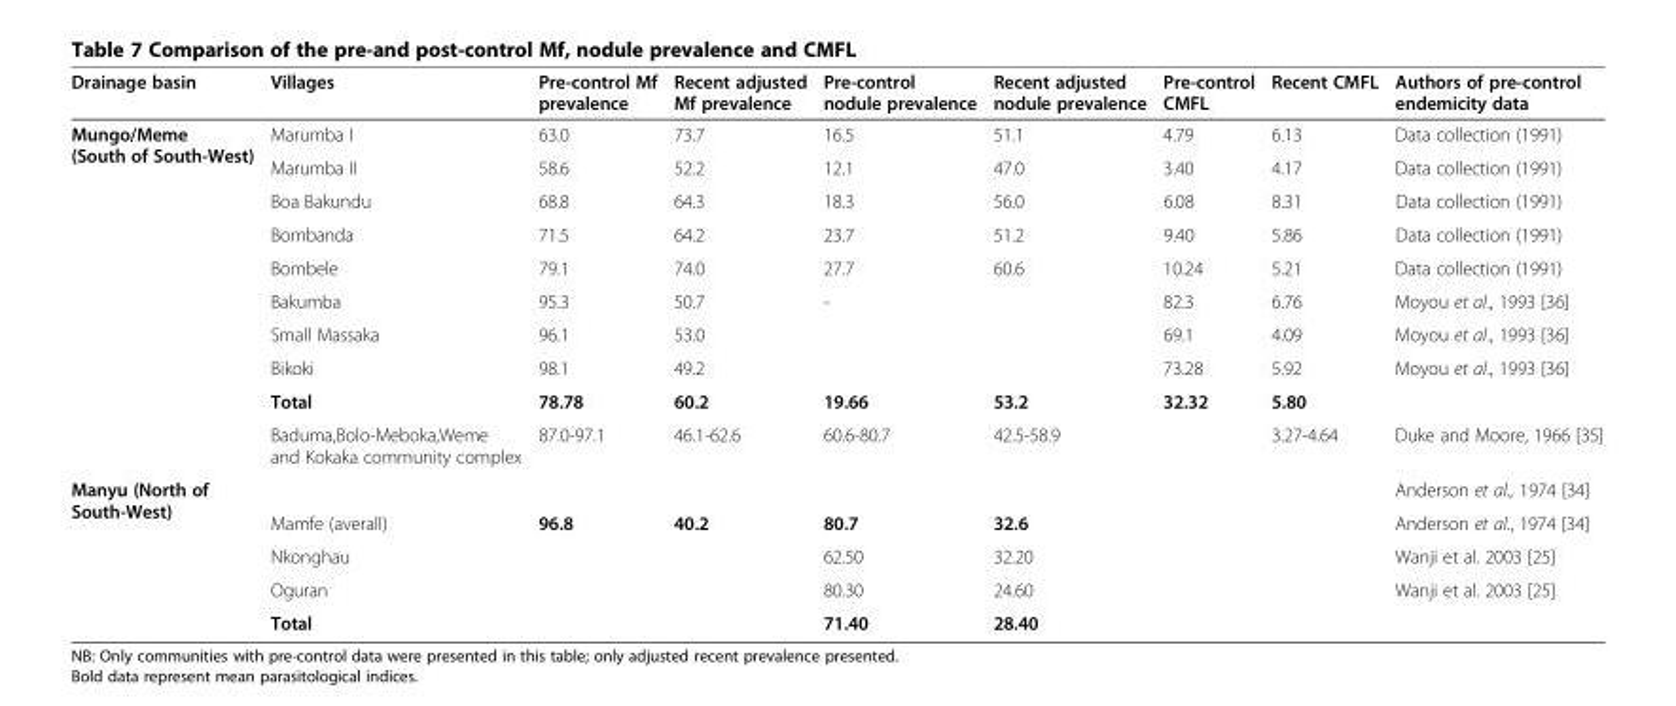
<table><thead><tr><td>Drainage basin</td><td>Villages</td><td>Pre-control Mf prevalence</td><td>Recent adjusted Mf prevalence</td><td>Pre-control nodule prevalence</td><td>Recent adjusted nodule prevalence</td><td>Pre-control CMFL</td><td>Recent CMFL</td><td>Authors of pre-control endemicity data</td></tr></thead><tbody><tr><td rowspan="10">Mungo/Meme (South of South-West)</td><td>Marumba I</td><td>63.0</td><td>73.7</td><td>16.5</td><td>51.1</td><td>4.79</td><td>6.13</td><td>Data collection (1991)</td></tr><tr><td>Marumba II</td><td>58.6</td><td>52.2</td><td>12.1</td><td>47.0</td><td>3.40</td><td>4.17</td><td>Data collection (1991)</td></tr><tr><td>Boa Bakundu</td><td>68.8</td><td>64.3</td><td>18.3</td><td>56.0</td><td>6.08</td><td>8.31</td><td>Data collection (1991)</td></tr><tr><td>Bombanda</td><td>71.5</td><td>64.2</td><td>23.7</td><td>51.2</td><td>9.40</td><td>5.86</td><td>Data collection (1991)</td></tr><tr><td>Bombele</td><td>79.1</td><td>74.0</td><td>27.7</td><td>60.6</td><td>10.24</td><td>5.21</td><td>Data collection (1991)</td></tr><tr><td>Bakumba</td><td>95.3</td><td>50.7</td><td>-</td><td></td><td>82.3</td><td>6.76</td><td>Moyou et al., 1993 [36]</td></tr><tr><td>Small Massaka</td><td>96.1</td><td>53.0</td><td></td><td></td><td>69.1</td><td>4.09</td><td>Moyou et al., 1993 [36]</td></tr><tr><td>Bikoki</td><td>98.1</td><td>49.2</td><td></td><td></td><td>73.28</td><td>5.92</td><td>Moyou et al., 1993 [36]</td></tr><tr><td>Total</td><td>78.78</td><td>60.2</td><td>19.66</td><td>53.2</td><td>32.32</td><td>5.80</td><td></td></tr><tr><td>Baduma,Bolo-Meboka,Weme and Kokaka community complex</td><td>87.0-97.1</td><td>46.1-62.6</td><td>60.6-80.7</td><td>42.5-58.9</td><td></td><td>3.27-4.64</td><td>Duke and Moore, 1966 [35]</td></tr><tr><td rowspan="5">Manyu (North of South-West)</td><td></td><td></td><td></td><td></td><td></td><td></td><td></td><td>Anderson et al., 1974 [34]</td></tr><tr><td>Mamfe (averall)</td><td>96.8</td><td>40.2</td><td>80.7</td><td>32.6</td><td></td><td></td><td>Anderson et al., 1974 [34]</td></tr><tr><td>Nkonghau</td><td></td><td></td><td>62.50</td><td>32.20</td><td></td><td></td><td>Wanji et al. 2003 [25]</td></tr><tr><td>Oguran</td><td></td><td></td><td>80.30</td><td>24.60</td><td></td><td></td><td>Wanji et al. 2003 [25]</td></tr><tr><td>Total</td><td></td><td></td><td>71.40</td><td>28.40</td><td></td><td></td><td></td></tr></tbody></table>